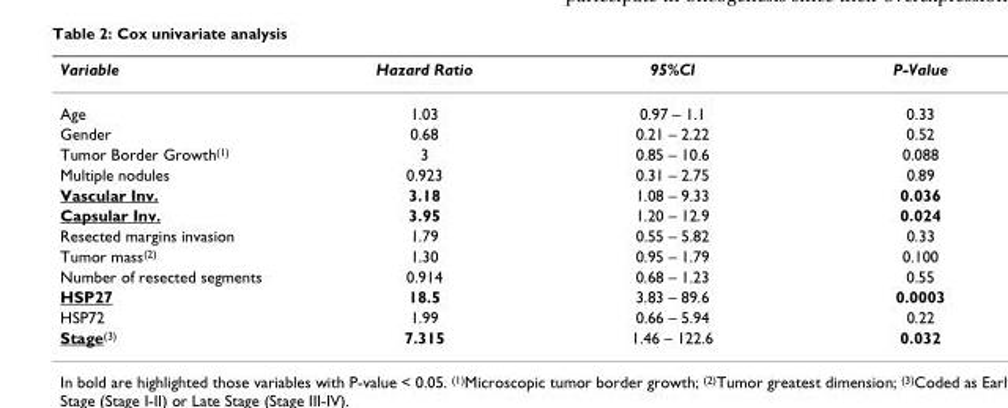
<table><thead><tr><td>Variable</td><td>Hazard Ratio</td><td>95%CI</td><td>P-Value</td></tr></thead><tbody><tr><td>Age</td><td>1.03</td><td>0.97 – 1.1</td><td>0.33</td></tr><tr><td>Gender</td><td>0.68</td><td>0.21 – 2.22</td><td>0.52</td></tr><tr><td>Tumor Border Growth<sup>(1)</sup></td><td>3</td><td>0.85 – 10.6</td><td>0.088</td></tr><tr><td>Multiple nodules</td><td>0.923</td><td>0.31 – 2.75</td><td>0.89</td></tr><tr><td>Vascular Inv.</td><td>3.18</td><td>1.08 – 9.33</td><td>0.036</td></tr><tr><td>Capsular Inv.</td><td>3.95</td><td>1.20 – 12.9</td><td>0.024</td></tr><tr><td>Resected margins invasion</td><td>1.79</td><td>0.55 – 5.82</td><td>0.33</td></tr><tr><td>Tumor mass<sup>(2)</sup></td><td>1.30</td><td>0.95 – 1.79</td><td>0.100</td></tr><tr><td>Number of resected segments</td><td>0.914</td><td>0.68 – 1.23</td><td>0.55</td></tr><tr><td>HSP27</td><td>18.5</td><td>3.83 – 89.6</td><td>0.0003</td></tr><tr><td>HSP72</td><td>1.99</td><td>0.66 – 5.94</td><td>0.22</td></tr><tr><td>Stage<sup>(3)</sup></td><td>7.315</td><td>1.46 – 122.6</td><td>0.032</td></tr></tbody></table>